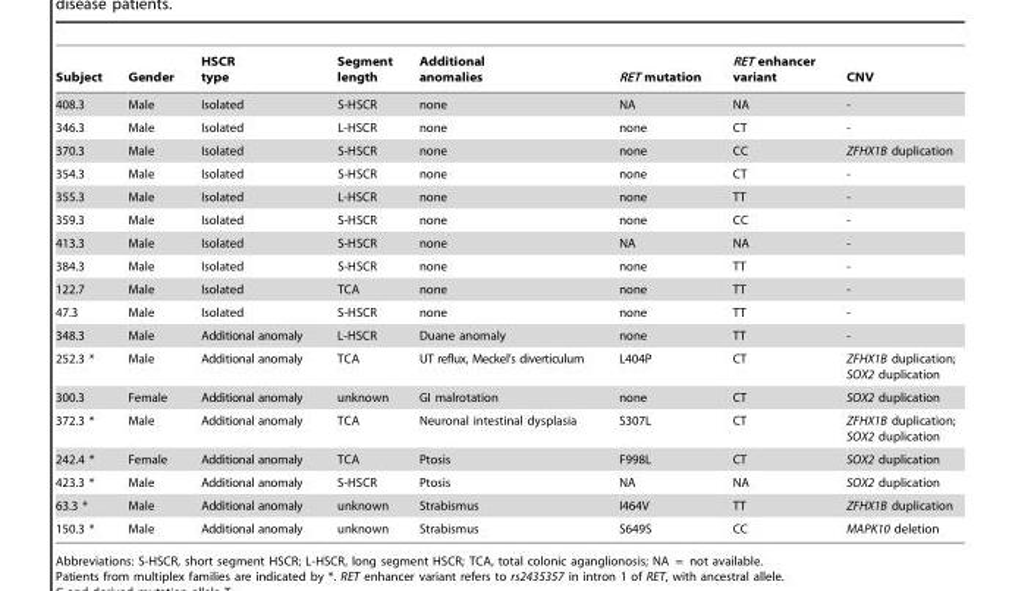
<table><thead><tr><td>Subject</td><td>Gender</td><td>HSCR type</td><td>Segment length</td><td>Additional anomalies</td><td>RET mutation</td><td>RET enhancer variant</td><td>CNV</td></tr></thead><tbody><tr><td>408.3</td><td>Male</td><td>Isolated</td><td>S-HSCR</td><td>none</td><td>NA</td><td>NA</td><td>-</td></tr><tr><td>346.3</td><td>Male</td><td>Isolated</td><td>L-HSCR</td><td>none</td><td>none</td><td>CT</td><td>-</td></tr><tr><td>370.3</td><td>Male</td><td>Isolated</td><td>S-HSCR</td><td>none</td><td>none</td><td>CC</td><td>ZFHX1B duplication</td></tr><tr><td>354.3</td><td>Male</td><td>Isolated</td><td>S-HSCR</td><td>none</td><td>none</td><td>CT</td><td>-</td></tr><tr><td>355.3</td><td>Male</td><td>Isolated</td><td>L-HSCR</td><td>none</td><td>none</td><td>TT</td><td>-</td></tr><tr><td>359.3</td><td>Male</td><td>Isolated</td><td>S-HSCR</td><td>none</td><td>none</td><td>CC</td><td>-</td></tr><tr><td>413.3</td><td>Male</td><td>Isolated</td><td>S-HSCR</td><td>none</td><td>NA</td><td>NA</td><td>-</td></tr><tr><td>384.3</td><td>Male</td><td>Isolated</td><td>S-HSCR</td><td>none</td><td>none</td><td>TT</td><td>-</td></tr><tr><td>122.7</td><td>Male</td><td>Isolated</td><td>TCA</td><td>none</td><td>none</td><td>TT</td><td>-</td></tr><tr><td>47.3</td><td>Male</td><td>Isolated</td><td>S-HSCR</td><td>none</td><td>none</td><td>TT</td><td>-</td></tr><tr><td>348.3</td><td>Male</td><td>Additional anomaly</td><td>L-HSCR</td><td>Duane anomaly</td><td>none</td><td>TT</td><td>-</td></tr><tr><td>252.3 *</td><td>Male</td><td>Additional anomaly</td><td>TCA</td><td>UT reflux, Meckel’s diverticulum</td><td>L404P</td><td>CT</td><td>ZFHX1B duplication; SOX2 duplication</td></tr><tr><td>300.3</td><td>Female</td><td>Additional anomaly</td><td>unknown</td><td>GI malrotation</td><td>none</td><td>CT</td><td>SOX2 duplication</td></tr><tr><td>372.3 *</td><td>Male</td><td>Additional anomaly</td><td>TCA</td><td>Neuronal intestinal dysplasia</td><td>S307L</td><td>CT</td><td>ZFHX1B duplication; SOX2 duplication</td></tr><tr><td>242.4 *</td><td>Female</td><td>Additional anomaly</td><td>TCA</td><td>Ptosis</td><td>F998L</td><td>CT</td><td>SOX2 duplication</td></tr><tr><td>423.3 *</td><td>Male</td><td>Additional anomaly</td><td>S-HSCR</td><td>Ptosis</td><td>NA</td><td>NA</td><td>SOX2 duplication</td></tr><tr><td>63.3 *</td><td>Male</td><td>Additional anomaly</td><td>unknown</td><td>Strabismus</td><td>I464V</td><td>TT</td><td>ZFHX1B duplication</td></tr><tr><td>150.3 *</td><td>Male</td><td>Additional anomaly</td><td>unknown</td><td>Strabismus</td><td>S649S</td><td>CC</td><td>MAPK10 deletion</td></tr></tbody></table>